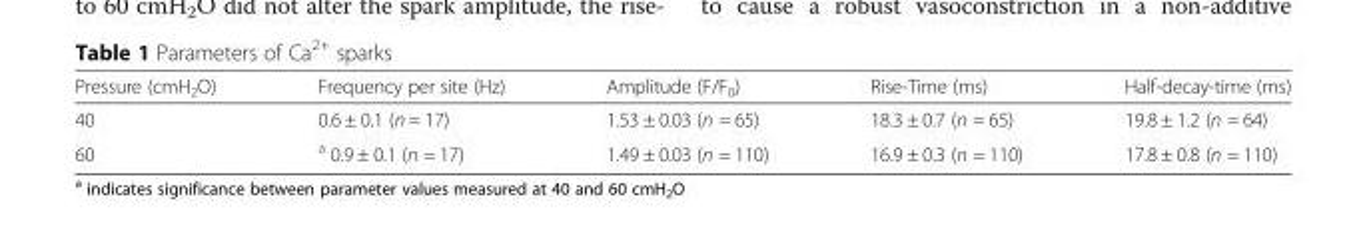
<table><thead><tr><td>Pressure (cmH<sub>2</sub>O)</td><td>Frequency per site (Hz)</td><td>Amplitude (F/F<sub>0</sub>)</td><td>Rise-Time (ms)</td><td>Half-decay-time (ms)</td></tr></thead><tbody><tr><td>40</td><td>0.6 ± 0.1 (n = 17)</td><td>1.53 ± 0.03 (n = 65)</td><td>18.3 ± 0.7 (n = 65)</td><td>19.8 ± 1.2 (n = 64)</td></tr><tr><td>60</td><td><sup>a</sup> 0.9 ± 0.1 (n = 17)</td><td>1.49 ± 0.03 (n = 110)</td><td>16.9 ± 0.3 (n = 110)</td><td>17.8 ± 0.8 (n = 110)</td></tr></tbody></table>